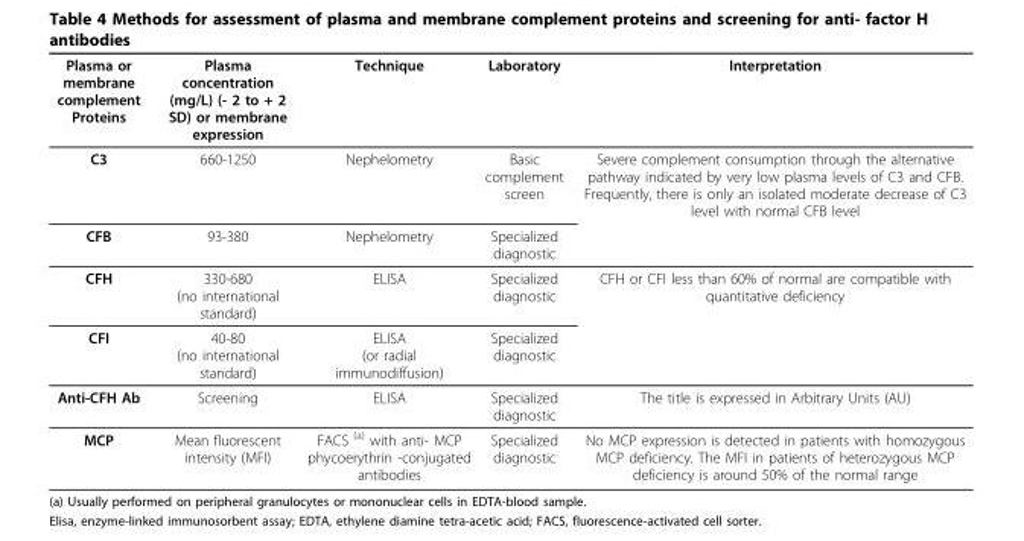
<table><thead><tr><td>Plasma or membrane complement Proteins</td><td>Plasma concentration (mg/L) (- 2 to + 2 SD) or membrane expression</td><td>Technique</td><td>Laboratory</td><td>Interpretation</td></tr></thead><tbody><tr><td>C3</td><td>660-1250</td><td>Nephelometry</td><td>Basic complement screen</td><td>Severe complement consumption through the alternative pathway indicated by very low plasma levels of C3 and CFB. Frequently, there is only an isolated moderate decrease of C3 level with normal CFB level</td></tr><tr><td>CFB</td><td>93-380</td><td>Nephelometry</td><td>Specialized diagnostic</td><td></td></tr><tr><td>CFH</td><td>330-680 (no international standard)</td><td>ELISA</td><td>Specialized diagnostic</td><td>CFH or CFI less than 60% of normal are compatible with quantitative deficiency</td></tr><tr><td>CFI</td><td>40-80 (no international standard)</td><td>ELISA (or radial immunodiffusion)</td><td>Specialized diagnostic</td><td></td></tr><tr><td>Anti-CFH Ab</td><td>Screening</td><td>ELISA</td><td>Specialized diagnostic</td><td>The title is expressed in Arbitrary Units (AU)</td></tr><tr><td>MCP</td><td>Mean fluorescent intensity (MFI)</td><td>FACS <sup>(a)</sup> with anti- MCP phycoerythrin -conjugated antibodies</td><td>Specialized diagnostic</td><td>No MCP expression is detected in patients with homozygous MCP deficiency. The MFI in patients of heterozygous MCP deficiency is around 50% of the normal range</td></tr></tbody></table>